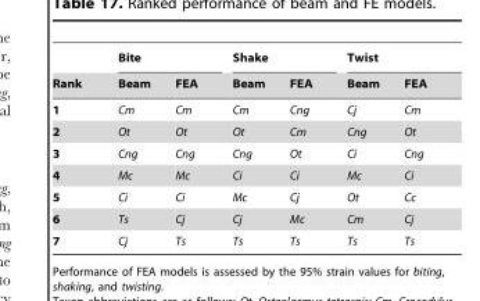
<table><thead><tr><td rowspan="2">Rank</td><td colspan="2">Bite</td><td colspan="2">Shake</td><td colspan="2">Twist</td></tr><tr><td>Beam</td><td>FEA</td><td>Beam</td><td>FEA</td><td>Beam</td><td>FEA</td></tr></thead><tbody><tr><td>1</td><td>Cm</td><td>Cm</td><td>Cm</td><td>Cng</td><td>Cj</td><td>Cm</td></tr><tr><td>2</td><td>Ot</td><td>Ot</td><td>Ot</td><td>Cm</td><td>Cng</td><td>Ot</td></tr><tr><td>3</td><td>Cng</td><td>Cng</td><td>Cng</td><td>Ot</td><td>Ci</td><td>Cng</td></tr><tr><td>4</td><td>Mc</td><td>Mc</td><td>Ci</td><td>Ci</td><td>Mc</td><td>Ci</td></tr><tr><td>5</td><td>Ci</td><td>Ci</td><td>Mc</td><td>Cj</td><td>Ot</td><td>Cc</td></tr><tr><td>6</td><td>Ts</td><td>Cj</td><td>Cj</td><td>Mc</td><td>Cm</td><td>Cj</td></tr><tr><td>7</td><td>Cj</td><td>Ts</td><td>Ts</td><td>Ts</td><td>Ts</td><td>Ts</td></tr></tbody></table>